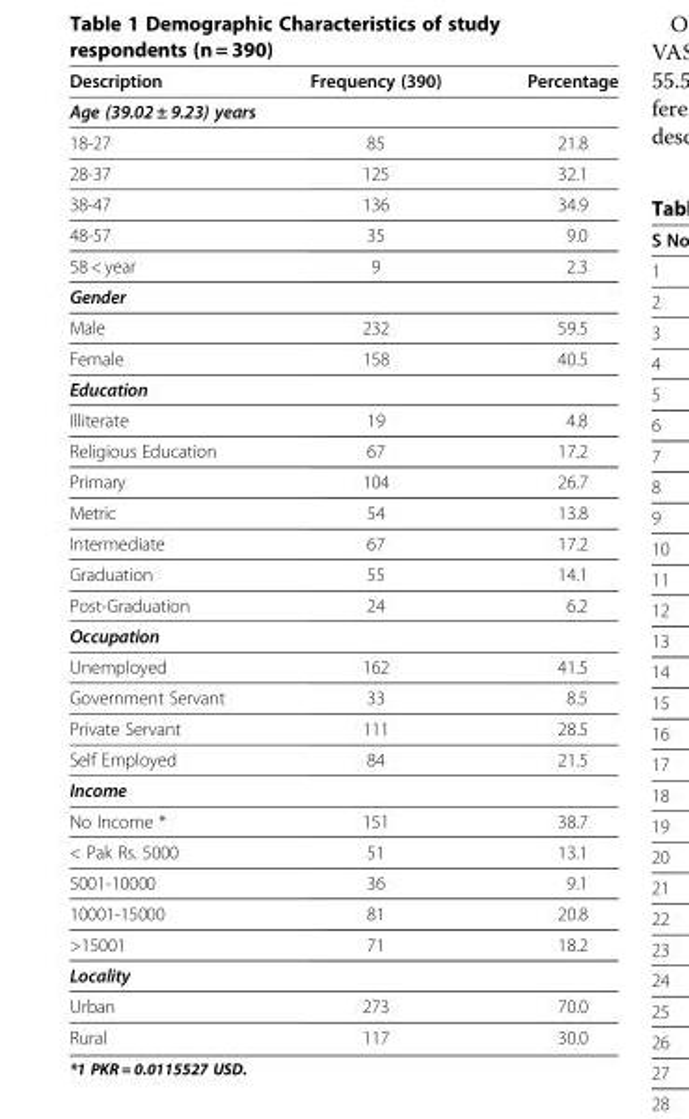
<table><thead><tr><td>Description</td><td>Frequency (390)</td><td>Percentage</td></tr></thead><tbody><tr><td colspan="3">Age (39.02 ± 9.23) years</td></tr><tr><td>18-27</td><td>85</td><td>21.8</td></tr><tr><td>28-37</td><td>125</td><td>32.1</td></tr><tr><td>38-47</td><td>136</td><td>34.9</td></tr><tr><td>48-57</td><td>35</td><td>9.0</td></tr><tr><td>58 &lt; year</td><td>9</td><td>2.3</td></tr><tr><td colspan="3">Gender</td></tr><tr><td>Male</td><td>232</td><td>59.5</td></tr><tr><td>Female</td><td>158</td><td>40.5</td></tr><tr><td colspan="3">Education</td></tr><tr><td>Illiterate</td><td>19</td><td>4.8</td></tr><tr><td>Religious Education</td><td>67</td><td>17.2</td></tr><tr><td>Primary</td><td>104</td><td>26.7</td></tr><tr><td>Metric</td><td>54</td><td>13.8</td></tr><tr><td>Intermediate</td><td>67</td><td>17.2</td></tr><tr><td>Graduation</td><td>55</td><td>14.1</td></tr><tr><td>Post-Graduation</td><td>24</td><td>6.2</td></tr><tr><td colspan="3">Occupation</td></tr><tr><td>Unemployed</td><td>162</td><td>41.5</td></tr><tr><td>Government Servant</td><td>33</td><td>8.5</td></tr><tr><td>Private Servant</td><td>111</td><td>28.5</td></tr><tr><td>Self Employed</td><td>84</td><td>21.5</td></tr><tr><td colspan="3">Income</td></tr><tr><td>No Income *</td><td>151</td><td>38.7</td></tr><tr><td>&lt; Pak Rs. 5000</td><td>51</td><td>13.1</td></tr><tr><td>5001-10000</td><td>36</td><td>9.1</td></tr><tr><td>10001-15000</td><td>81</td><td>20.8</td></tr><tr><td>&gt;15001</td><td>71</td><td>18.2</td></tr><tr><td colspan="3">Locality</td></tr><tr><td>Urban</td><td>273</td><td>70.0</td></tr><tr><td>Rural</td><td>117</td><td>30.0</td></tr></tbody></table>